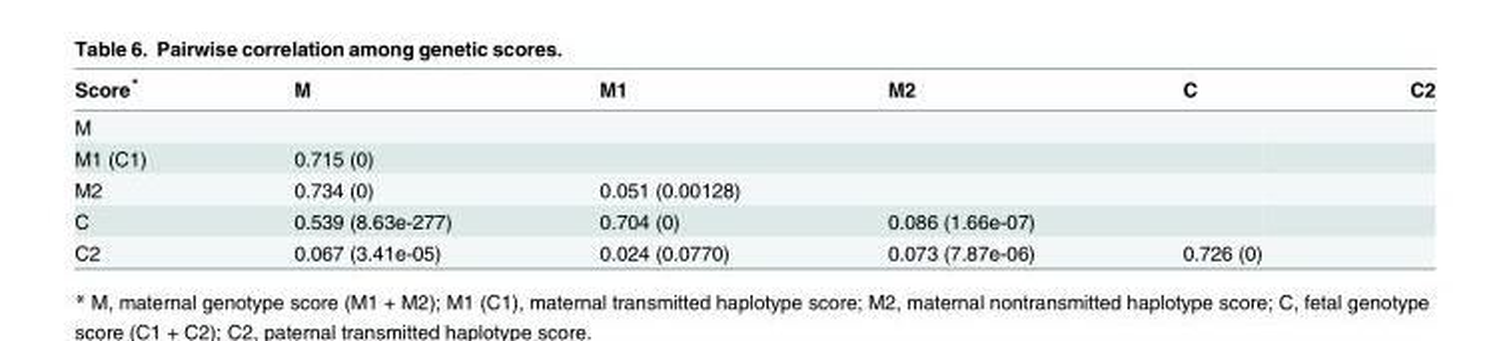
<table><thead><tr><td>Score*</td><td>M</td><td>M1</td><td>M2</td><td>C</td><td>C2</td></tr></thead><tbody><tr><td colspan="6">M</td></tr><tr><td>M1 (C1)</td><td>0.715 (0)</td><td></td><td></td><td></td><td></td></tr><tr><td>M2</td><td>0.734 (0)</td><td>0.051 (0.00128)</td><td></td><td></td><td></td></tr><tr><td>C</td><td>0.539 (8.63e-277)</td><td>0.704 (0)</td><td>0.086 (1.66e-07)</td><td></td><td></td></tr><tr><td>C2</td><td>0.067 (3.41e-05)</td><td>0.024 (0.0770)</td><td>0.073 (7.87e-06)</td><td>0.726 (0)</td><td></td></tr></tbody></table>